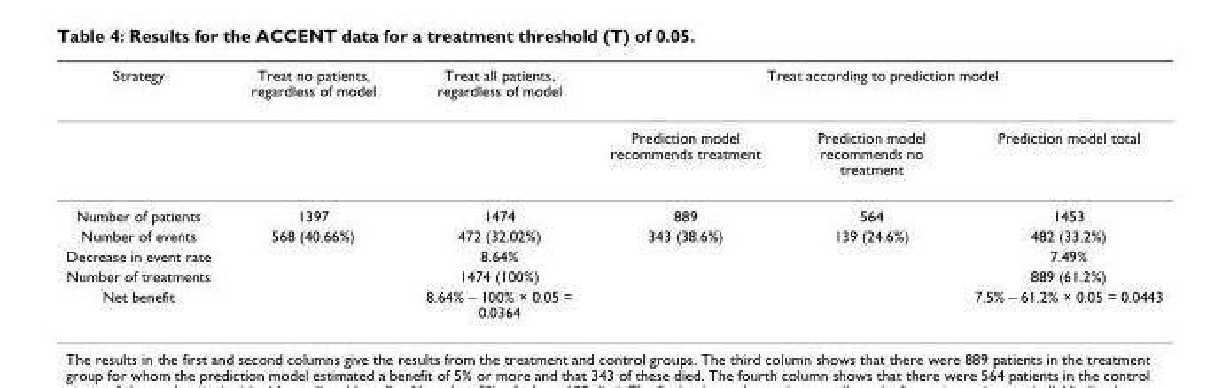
<table><thead><tr><td rowspan="2">Strategy</td><td rowspan="2">Treat no patients, regardless of model</td><td rowspan="2">Treat all patients, regardless of model</td><td colspan="3">Treat according to prediction model</td></tr><tr><td>Prediction model recommends treatment</td><td>Prediction model recommends no treatment</td><td>Prediction model total</td></tr></thead><tbody><tr><td>Number of patients</td><td>1397</td><td>1474</td><td>889</td><td>564</td><td>1453</td></tr><tr><td>Number of events</td><td>568 (40.66%)</td><td>472 (32.02%)</td><td>343 (38.6%)</td><td>139 (24.6%)</td><td>482 (33.2%)</td></tr><tr><td>Decrease in event rate</td><td></td><td>8.64%</td><td></td><td></td><td>7.49%</td></tr><tr><td>Number of treatments</td><td></td><td>1474 (100%)</td><td></td><td></td><td>889 (61.2%)</td></tr><tr><td>Net benefit</td><td></td><td>8.64% – 100% × 0.05 = 0.0364</td><td></td><td></td><td>7.5% – 61.2% × 0.05 = 0.0443</td></tr></tbody></table>